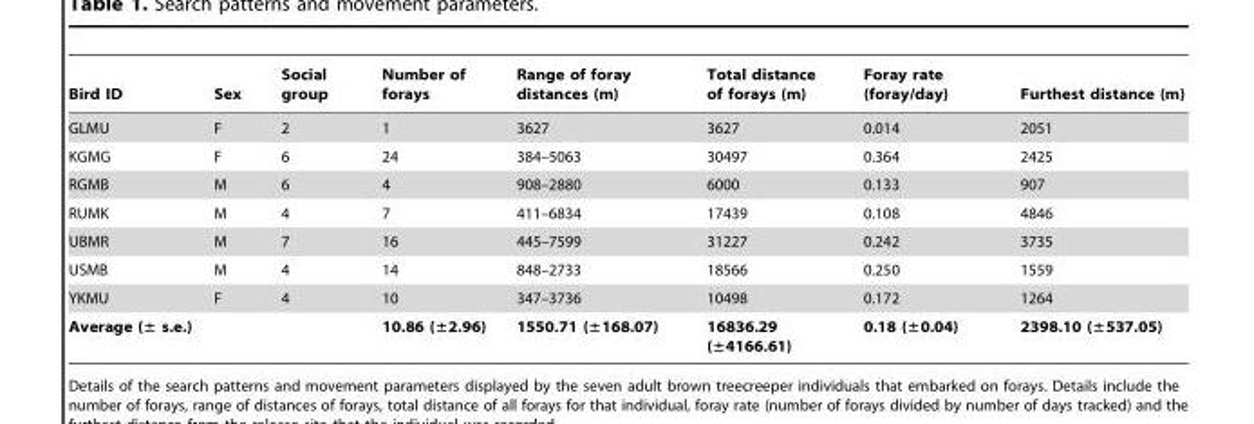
<table><thead><tr><td>Bird ID</td><td>Sex</td><td>Social group</td><td>Number of forays</td><td>Range of foray distances (m)</td><td>Total distance of forays (m)</td><td>Foray rate (foray/day)</td><td>Furthest distance (m)</td></tr></thead><tbody><tr><td>GLMU</td><td>F</td><td>2</td><td>1</td><td>3627</td><td>3627</td><td>0.014</td><td>2051</td></tr><tr><td>KGMG</td><td>F</td><td>6</td><td>24</td><td>384–5063</td><td>30497</td><td>0.364</td><td>2425</td></tr><tr><td>RGMB</td><td>M</td><td>6</td><td>4</td><td>908–2880</td><td>6000</td><td>0.133</td><td>907</td></tr><tr><td>RUMK</td><td>M</td><td>4</td><td>7</td><td>411–6834</td><td>17439</td><td>0.108</td><td>4846</td></tr><tr><td>UBMR</td><td>M</td><td>7</td><td>16</td><td>445–7599</td><td>31227</td><td>0.242</td><td>3735</td></tr><tr><td>USMB</td><td>M</td><td>4</td><td>14</td><td>848–2733</td><td>18566</td><td>0.250</td><td>1559</td></tr><tr><td>YKMU</td><td>F</td><td>4</td><td>10</td><td>347–3736</td><td>10498</td><td>0.172</td><td>1264</td></tr><tr><td>Average (± s.e.)</td><td></td><td></td><td>10.86 (±2.96)</td><td>1550.71 (±168.07)</td><td>16836.29 (±4166.61)</td><td>0.18 (±0.04)</td><td>2398.10 (±537.05)</td></tr></tbody></table>